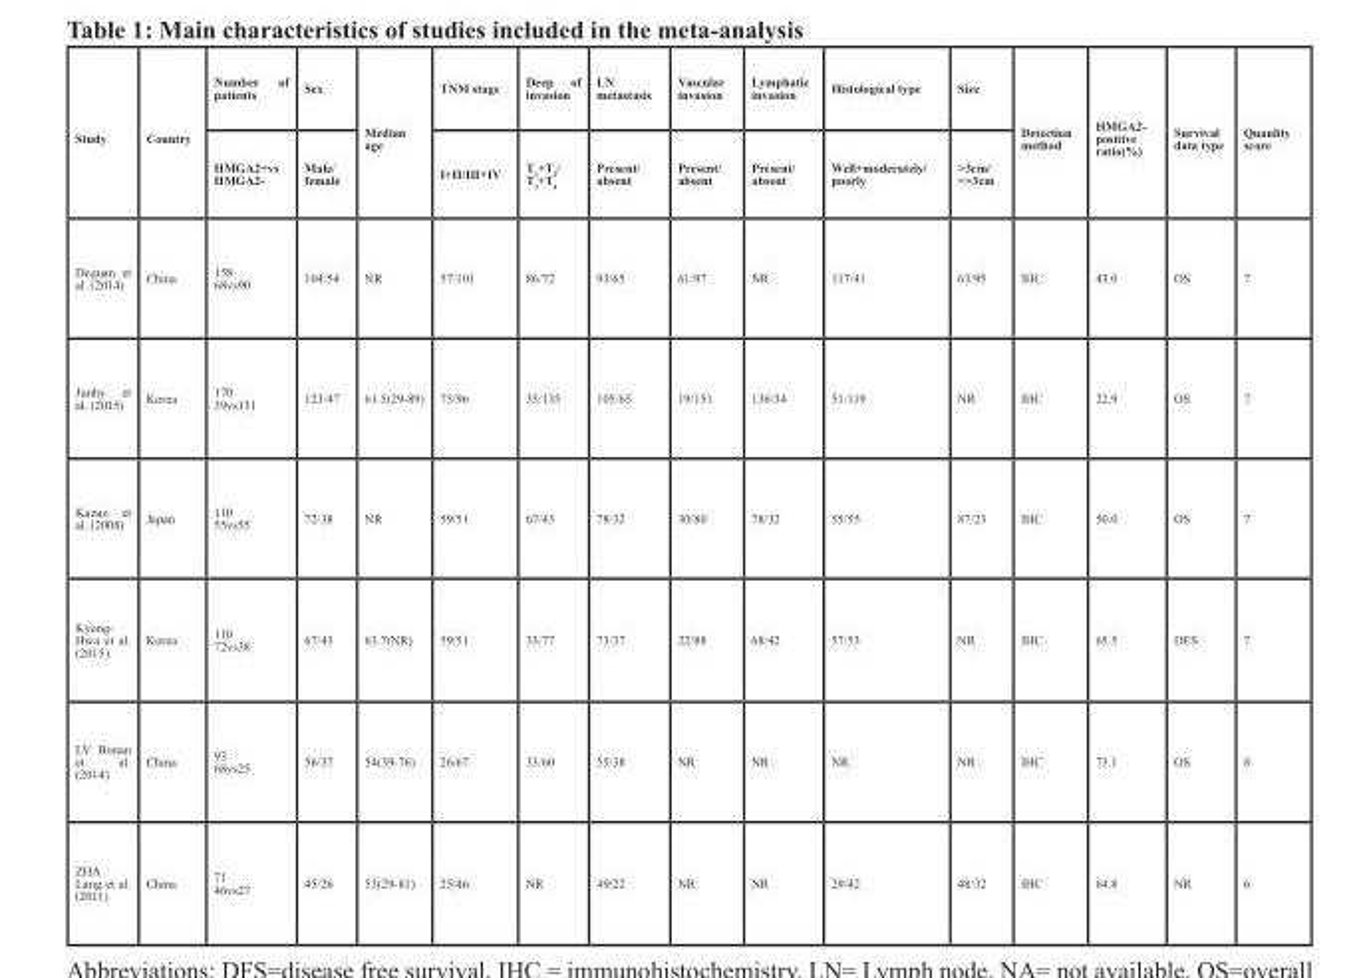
<table><thead><tr><td rowspan="2">Study</td><td rowspan="2">Country</td><td rowspan="2">Number of patients HMGA2+vs HMGA2-</td><td rowspan="2">Sex Male/ female</td><td rowspan="2">Median age</td><td rowspan="2">TNM stage I+II/III+IV</td><td rowspan="2">Deep of invasion T<sub>1</sub>+T<sub>2</sub>/ T<sub>3</sub>+T<sub>4</sub></td><td rowspan="2">LN metastasis Present/ absent</td><td rowspan="2">Vascular invasion Present/ absent</td><td rowspan="2">Lymphatic invasion Present/ absent</td><td rowspan="2">Histological type Well+moderately/ poorly</td><td rowspan="2">Size &gt;3cm/ &lt;=3cm</td><td rowspan="2">Detection method</td><td rowspan="2">HMGA2- positive ratio(%)</td><td rowspan="2">Survival data type</td><td rowspan="2">Quanlity score</td></tr><tr></tr></thead><tbody><tr><td>Dequan et al. (2014)</td><td>China</td><td>158 68vs90</td><td>104/54</td><td>NR</td><td>57/101</td><td>86/72</td><td>93/65</td><td>61/97</td><td>NR</td><td>117/41</td><td>63/95</td><td>IHC</td><td>43.0</td><td>OS</td><td>7</td></tr><tr><td>Junhy et al. (2015)</td><td>Korea</td><td>170 39vs131</td><td>123/47</td><td>61.5(29-89)</td><td>75/96</td><td>35/135</td><td>105/65</td><td>19/151</td><td>136/34</td><td>51/119</td><td>NR</td><td>IHC</td><td>22.9</td><td>OS</td><td>7</td></tr><tr><td>Kazuo et al. (2008)</td><td>Japan</td><td>110 55vs55</td><td>72/38</td><td>NR</td><td>59/51</td><td>67/43</td><td>78/32</td><td>30/80</td><td>78/32</td><td>55/55</td><td>87/23</td><td>IHC</td><td>50.0</td><td>OS</td><td>7</td></tr><tr><td>Kyong- Hwa et al. (2015)</td><td>Korea</td><td>110 72vs38</td><td>67/43</td><td>63.7(NR)</td><td>59/51</td><td>33/77</td><td>73/37</td><td>22/88</td><td>68/42</td><td>57/53</td><td>NR</td><td>IHC</td><td>65.5</td><td>DFS</td><td>7</td></tr><tr><td>LV Bonan et al. (2014)</td><td>China</td><td>93 68vs25</td><td>56/37</td><td>54(39-76)</td><td>26/67</td><td>33/60</td><td>55/38</td><td>NR</td><td>NR</td><td>NR</td><td>NR</td><td>IHC</td><td>73.1</td><td>OS</td><td>8</td></tr><tr><td>ZHA Lang et al. (2011)</td><td>China</td><td>71 46vs27</td><td>45/26</td><td>53(29-81)</td><td>25/46</td><td>NR</td><td>49/22</td><td>NR</td><td>NR</td><td>29/42</td><td>48/32</td><td>IHC</td><td>64.8</td><td>NR</td><td>6</td></tr></tbody></table>